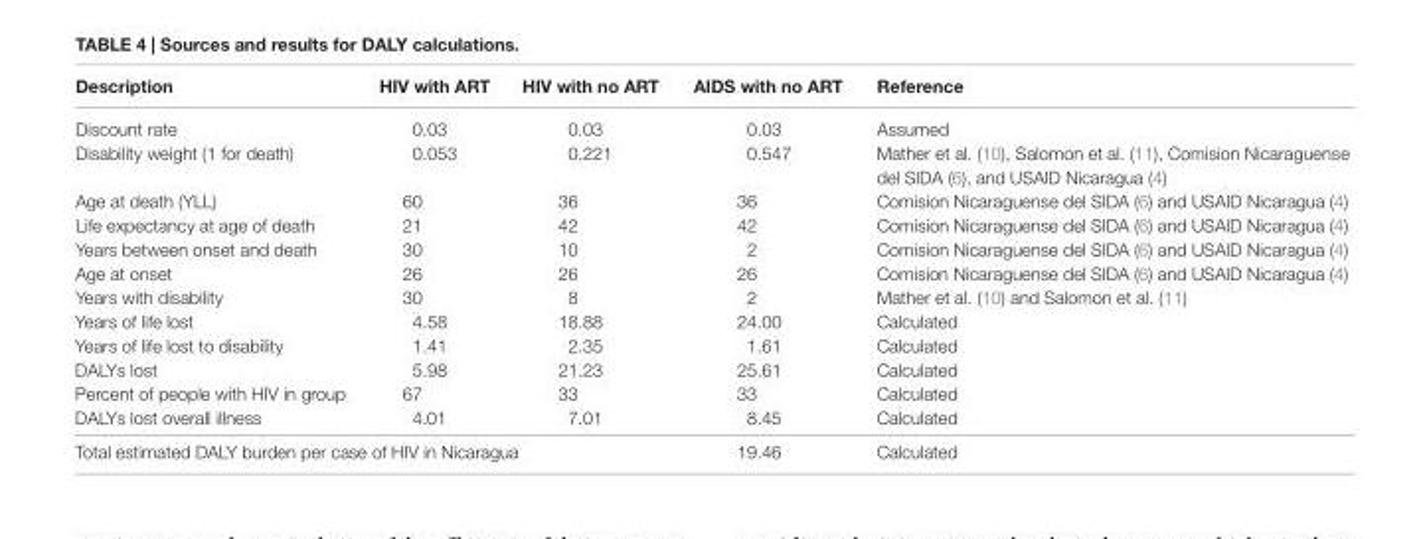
<table><thead><tr><td>Description</td><td>hiV with arT</td><td>hiV with no arT</td><td>aiDs with no arT</td><td>reference</td></tr></thead><tbody><tr><td>Discount rate</td><td>0.03</td><td>0.03</td><td>0.03</td><td>Assumed</td></tr><tr><td>Disability weight (1 for death)</td><td>0.053</td><td>0.221</td><td>0.547</td><td>Mather et al. (10), Salomon et al. (11), Comision Nicaraguense del SIDA (6), and USAID Nicaragua (4)</td></tr><tr><td>Age at death (YLL)</td><td>60</td><td>36</td><td>36</td><td>Comision Nicaraguense del SIDA (6) and USAID Nicaragua (4)</td></tr><tr><td>Life expectancy at age of death</td><td>21</td><td>42</td><td>42</td><td>Comision Nicaraguense del SIDA (6) and USAID Nicaragua (4)</td></tr><tr><td>Years between onset and death</td><td>30</td><td>10</td><td>2</td><td>Comision Nicaraguense del SIDA (6) and USAID Nicaragua (4)</td></tr><tr><td>Age at onset</td><td>26</td><td>26</td><td>26</td><td>Comision Nicaraguense del SIDA (6) and USAID Nicaragua (4)</td></tr><tr><td>Years with disability</td><td>30</td><td>8</td><td>2</td><td>Mather et al. (10) and Salomon et al. (11)</td></tr><tr><td>Years of life lost</td><td>4.58</td><td>18.88</td><td>24.00</td><td>Calculated</td></tr><tr><td>Years of life lost to disability</td><td>1.41</td><td>2.35</td><td>1.61</td><td>Calculated</td></tr><tr><td>DALYs lost</td><td>5.98</td><td>21.23</td><td>25.61</td><td>Calculated</td></tr><tr><td>Percent of people with HIV in group</td><td>67</td><td>33</td><td>33</td><td>Calculated</td></tr><tr><td>DALYs lost overall illness</td><td>4.01</td><td>7.01</td><td>8.45</td><td>Calculated</td></tr><tr><td colspan="3">Total estimated DALY burden per case of HIV in Nicaragua</td><td>19.46</td><td>Calculated</td></tr></tbody></table>